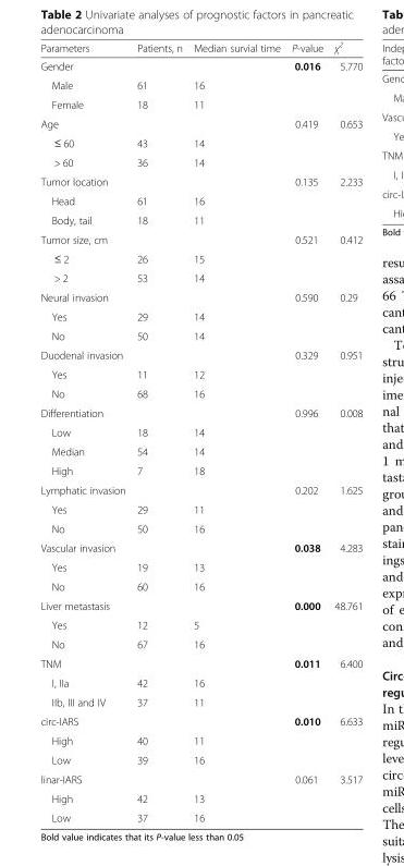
<table><thead><tr><td>Parameters</td><td>Patients, n</td><td>Median survial time</td><td>P-value</td><td>χ<sup>2</sup></td></tr></thead><tbody><tr><td>Gender</td><td></td><td></td><td>0.016</td><td>5.770</td></tr><tr><td>Male</td><td>61</td><td>16</td><td></td><td></td></tr><tr><td>Female</td><td>18</td><td>11</td><td></td><td></td></tr><tr><td>Age</td><td></td><td></td><td>0.419</td><td>0.653</td></tr><tr><td>≤ 60</td><td>43</td><td>14</td><td></td><td></td></tr><tr><td>&gt; 60</td><td>36</td><td>14</td><td></td><td></td></tr><tr><td>Tumor location</td><td></td><td></td><td>0.135</td><td>2.233</td></tr><tr><td>Head</td><td>61</td><td>16</td><td></td><td></td></tr><tr><td>Body, tail</td><td>18</td><td>11</td><td></td><td></td></tr><tr><td>Tumor size, cm</td><td></td><td></td><td>0.521</td><td>0.412</td></tr><tr><td>≤ 2</td><td>26</td><td>15</td><td></td><td></td></tr><tr><td>&gt; 2</td><td>53</td><td>14</td><td></td><td></td></tr><tr><td>Neural invasion</td><td></td><td></td><td>0.590</td><td>0.29</td></tr><tr><td>Yes</td><td>29</td><td>14</td><td></td><td></td></tr><tr><td>No</td><td>50</td><td>14</td><td></td><td></td></tr><tr><td>Duodenal invasion</td><td></td><td></td><td>0.329</td><td>0.951</td></tr><tr><td>Yes</td><td>11</td><td>12</td><td></td><td></td></tr><tr><td>No</td><td>68</td><td>16</td><td></td><td></td></tr><tr><td>Differentiation</td><td></td><td></td><td>0.996</td><td>0.008</td></tr><tr><td>Low</td><td>18</td><td>14</td><td></td><td></td></tr><tr><td>Median</td><td>54</td><td>14</td><td></td><td></td></tr><tr><td>High</td><td>7</td><td>18</td><td></td><td></td></tr><tr><td>Lymphatic invasion</td><td></td><td></td><td>0.202</td><td>1.625</td></tr><tr><td>Yes</td><td>29</td><td>11</td><td></td><td></td></tr><tr><td>No</td><td>50</td><td>16</td><td></td><td></td></tr><tr><td>Vascular invasion</td><td></td><td></td><td>0.038</td><td>4.283</td></tr><tr><td>Yes</td><td>19</td><td>13</td><td></td><td></td></tr><tr><td>No</td><td>60</td><td>16</td><td></td><td></td></tr><tr><td>Liver metastasis</td><td></td><td></td><td>0.000</td><td>48.761</td></tr><tr><td>Yes</td><td>12</td><td>5</td><td></td><td></td></tr><tr><td>No</td><td>67</td><td>16</td><td></td><td></td></tr><tr><td>TNM</td><td></td><td></td><td>0.011</td><td>6.400</td></tr><tr><td>I, IIa</td><td>42</td><td>16</td><td></td><td></td></tr><tr><td>IIb, III and IV</td><td>37</td><td>11</td><td></td><td></td></tr><tr><td>circ-IARS</td><td></td><td></td><td>0.010</td><td>6.633</td></tr><tr><td>High</td><td>40</td><td>11</td><td></td><td></td></tr><tr><td>Low</td><td>39</td><td>16</td><td></td><td></td></tr><tr><td>linar-IARS</td><td></td><td></td><td>0.061</td><td>3.517</td></tr><tr><td>High</td><td>42</td><td>13</td><td></td><td></td></tr><tr><td>Low</td><td>37</td><td>16</td><td></td><td></td></tr></tbody></table>